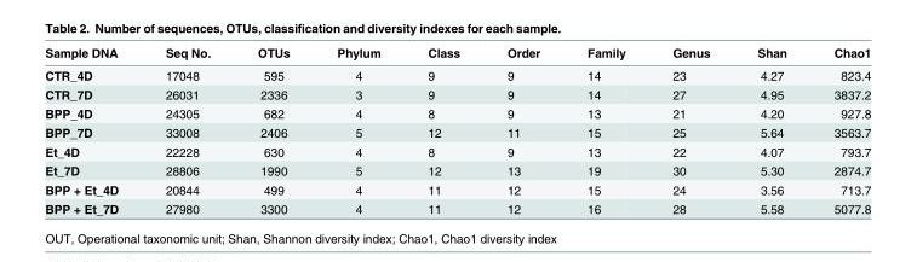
<table><thead><tr><td>Sample DNA</td><td>Seq No.</td><td>OTUs</td><td>Phylum</td><td>Class</td><td>Order</td><td>Family</td><td>Genus</td><td>Shan</td><td>Chao1</td></tr></thead><tbody><tr><td>CTR_4D</td><td>17048</td><td>595</td><td>4</td><td>9</td><td>9</td><td>14</td><td>23</td><td>4.27</td><td>823.4</td></tr><tr><td>CTR_7D</td><td>26031</td><td>2336</td><td>3</td><td>9</td><td>9</td><td>14</td><td>27</td><td>4.95</td><td>3837.2</td></tr><tr><td>BPP_4D</td><td>24305</td><td>682</td><td>4</td><td>8</td><td>9</td><td>13</td><td>21</td><td>4.20</td><td>927.8</td></tr><tr><td>BPP_7D</td><td>33008</td><td>2406</td><td>5</td><td>12</td><td>11</td><td>15</td><td>25</td><td>5.64</td><td>3563.7</td></tr><tr><td>Et_4D</td><td>22228</td><td>630</td><td>4</td><td>8</td><td>9</td><td>13</td><td>22</td><td>4.07</td><td>793.7</td></tr><tr><td>Et_7D</td><td>28806</td><td>1990</td><td>5</td><td>12</td><td>13</td><td>19</td><td>30</td><td>5.30</td><td>2874.7</td></tr><tr><td>BPP + Et_4D</td><td>20844</td><td>499</td><td>4</td><td>11</td><td>12</td><td>15</td><td>24</td><td>3.56</td><td>713.7</td></tr><tr><td>BPP + Et_7D</td><td>27980</td><td>3300</td><td>4</td><td>11</td><td>12</td><td>16</td><td>28</td><td>5.58</td><td>5077.8</td></tr></tbody></table>